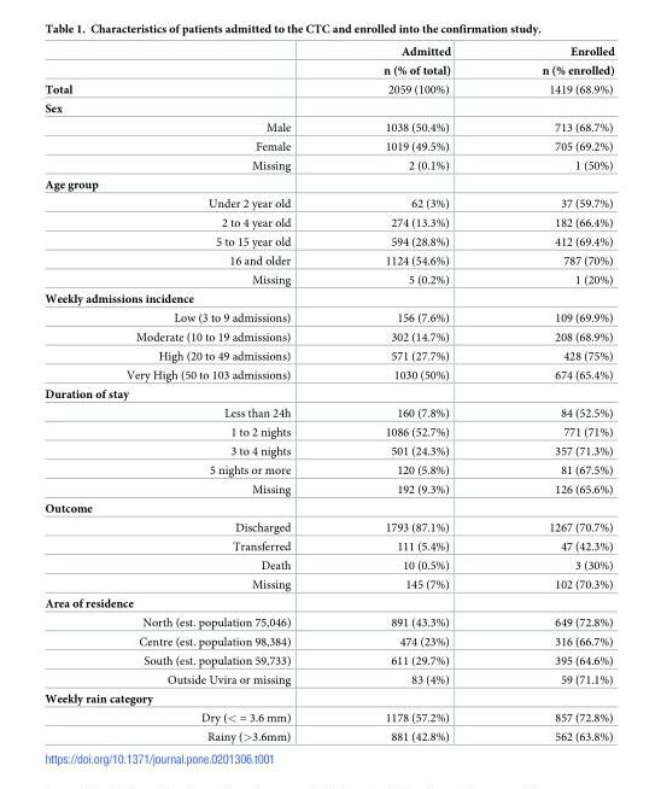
<table><thead><tr><td rowspan="2"></td><td rowspan="2">Admitted n (% of total)</td><td rowspan="2">Enrolled n (% enrolled)</td></tr><tr></tr></thead><tbody><tr><td>Total</td><td>2059 (100%)</td><td>1419 (68.9%)</td></tr><tr><td colspan="3">Sex</td></tr><tr><td>Male</td><td>1038 (50.4%)</td><td>713 (68.7%)</td></tr><tr><td>Female</td><td>1019 (49.5%)</td><td>705 (69.2%)</td></tr><tr><td>Missing</td><td>2 (0.1%)</td><td>1 (50%)</td></tr><tr><td colspan="3">Age group</td></tr><tr><td>Under 2 year old</td><td>62 (3%)</td><td>37 (59.7%)</td></tr><tr><td>2 to 4 year old</td><td>274 (13.3%)</td><td>182 (66.4%)</td></tr><tr><td>5 to 15 year old</td><td>594 (28.8%)</td><td>412 (69.4%)</td></tr><tr><td>16 and older</td><td>1124 (54.6%)</td><td>787 (70%)</td></tr><tr><td>Missing</td><td>5 (0.2%)</td><td>1 (20%)</td></tr><tr><td colspan="3">Weekly admissions incidence</td></tr><tr><td>Low (3 to 9 admissions)</td><td>156 (7.6%)</td><td>109 (69.9%)</td></tr><tr><td>Moderate (10 to 19 admissions)</td><td>302 (14.7%)</td><td>208 (68.9%)</td></tr><tr><td>High (20 to 49 admissions)</td><td>571 (27.7%)</td><td>428 (75%)</td></tr><tr><td>Very High (50 to 103 admissions)</td><td>1030 (50%)</td><td>674 (65.4%)</td></tr><tr><td colspan="3">Duration of stay</td></tr><tr><td>Less than 24h</td><td>160 (7.8%)</td><td>84 (52.5%)</td></tr><tr><td>1 to 2 nights</td><td>1086 (52.7%)</td><td>771 (71%)</td></tr><tr><td>3 to 4 nights</td><td>501 (24.3%)</td><td>357 (71.3%)</td></tr><tr><td>5 nights or more</td><td>120 (5.8%)</td><td>81 (67.5%)</td></tr><tr><td>Missing</td><td>192 (9.3%)</td><td>126 (65.6%)</td></tr><tr><td colspan="3">Outcome</td></tr><tr><td>Discharged</td><td>1793 (87.1%)</td><td>1267 (70.7%)</td></tr><tr><td>Transferred</td><td>111 (5.4%)</td><td>47 (42.3%)</td></tr><tr><td>Death</td><td>10 (0.5%)</td><td>3 (30%)</td></tr><tr><td>Missing</td><td>145 (7%)</td><td>102 (70.3%)</td></tr><tr><td colspan="3">Area of residence</td></tr><tr><td>North (est. population 75,046)</td><td>891 (43.3%)</td><td>649 (72.8%)</td></tr><tr><td>Centre (est. population 98,384)</td><td>474 (23%)</td><td>316 (66.7%)</td></tr><tr><td>South (est. population 59,733)</td><td>611 (29.7%)</td><td>395 (64.6%)</td></tr><tr><td>Outside Uvira or missing</td><td>83 (4%)</td><td>59 (71.1%)</td></tr><tr><td colspan="3">Weekly rain category</td></tr><tr><td>Dry (&lt; = 3.6 mm)</td><td>1178 (57.2%)</td><td>857 (72.8%)</td></tr><tr><td>Rainy (&gt;3.6mm)</td><td>881 (42.8%)</td><td>562 (63.8%)</td></tr></tbody></table>